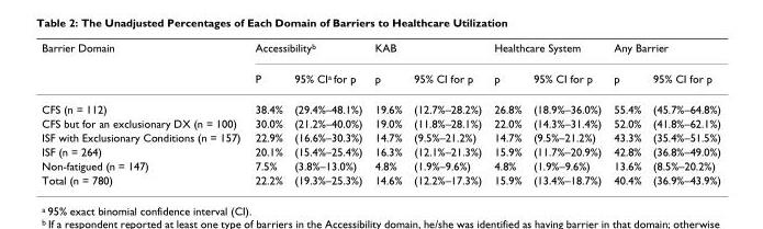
<table><thead><tr><td rowspan="2">Barrier Domain</td><td colspan="2">Accessibility<sup>b</sup></td><td colspan="2">KAB</td><td colspan="2">Healthcare System</td><td colspan="2">Any Barrier</td></tr><tr><td>P</td><td>95% CI<sup>a</sup> for p</td><td>p</td><td>95% CI for p</td><td>p</td><td>95% CI for p</td><td>p</td><td>95% CI for p</td></tr></thead><tbody><tr><td>CFS (n = 112)</td><td>38.4%</td><td>(29.4%–48.1%)</td><td>19.6%</td><td>(12.7%–28.2%)</td><td>26.8%</td><td>(18.9%–36.0%)</td><td>55.4%</td><td>(45.7%–64.8%)</td></tr><tr><td>CFS but for an exclusionary DX (n = 100)</td><td>30.0%</td><td>(21.2%–40.0%)</td><td>19.0%</td><td>(11.8%–28.1%)</td><td>22.0%</td><td>(14.3%–31.4%)</td><td>52.0%</td><td>(41.8%–62.1%)</td></tr><tr><td>ISF with Exclusionary Conditions (n = 157)</td><td>22.9%</td><td>(16.6%–30.3%)</td><td>14.7%</td><td>(9.5%–21.2%)</td><td>14.7%</td><td>(9.5%–21.2%)</td><td>43.3%</td><td>(35.4%–51.5%)</td></tr><tr><td>ISF (n = 264)</td><td>20.1%</td><td>(15.4%–25.4%)</td><td>16.3%</td><td>(12.1%–21.3%)</td><td>15.9%</td><td>(11.7%–20.9%)</td><td>42.8%</td><td>(36.8%–49.0%)</td></tr><tr><td>Non-fatigued (n = 147)</td><td>7.5%</td><td>(3.8%–13.0%)</td><td>4.8%</td><td>(1.9%–9.6%)</td><td>4.8%</td><td>(1.9%–9.6%)</td><td>13.6%</td><td>(8.5%–20.2%)</td></tr><tr><td>Total (n = 780)</td><td>22.2%</td><td>(19.3%–25.3%)</td><td>14.6%</td><td>(12.2%–17.3%)</td><td>15.9%</td><td>(13.4%–18.7%)</td><td>40.4%</td><td>(36.9%–43.9%)</td></tr></tbody></table>